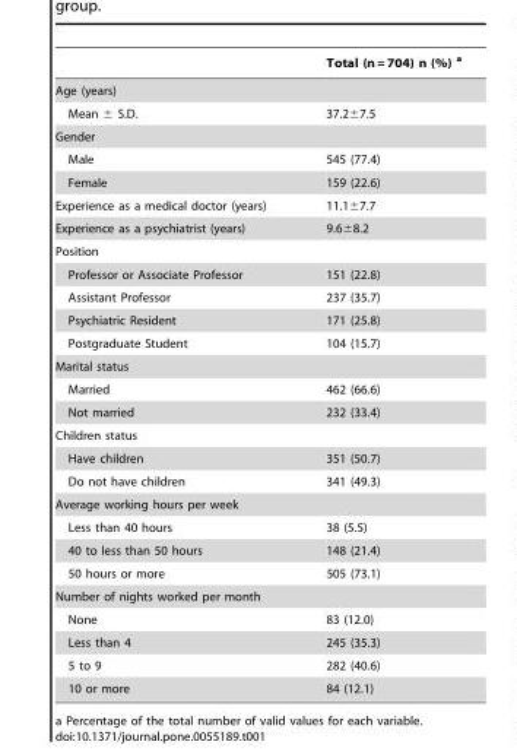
<table><thead><tr><td></td><td>Total (n = 704) n (%) <sup>a</sup></td></tr></thead><tbody><tr><td colspan="2">Age (years)</td></tr><tr><td>Mean ± S.D.</td><td>37.2±7.5</td></tr><tr><td colspan="2">Gender</td></tr><tr><td>Male</td><td>545 (77.4)</td></tr><tr><td>Female</td><td>159 (22.6)</td></tr><tr><td>Experience as a medical doctor (years)</td><td>11.1±7.7</td></tr><tr><td>Experience as a psychiatrist (years)</td><td>9.6±8.2</td></tr><tr><td colspan="2">Position</td></tr><tr><td>Professor or Associate Professor</td><td>151 (22.8)</td></tr><tr><td>Assistant Professor</td><td>237 (35.7)</td></tr><tr><td>Psychiatric Resident</td><td>171 (25.8)</td></tr><tr><td>Postgraduate Student</td><td>104 (15.7)</td></tr><tr><td colspan="2">Marital status</td></tr><tr><td>Married</td><td>462 (66.6)</td></tr><tr><td>Not married</td><td>232 (33.4)</td></tr><tr><td colspan="2">Children status</td></tr><tr><td>Have children</td><td>351 (50.7)</td></tr><tr><td>Do not have children</td><td>341 (49.3)</td></tr><tr><td colspan="2">Average working hours per week</td></tr><tr><td>Less than 40 hours</td><td>38 (5.5)</td></tr><tr><td>40 to less than 50 hours</td><td>148 (21.4)</td></tr><tr><td>50 hours or more</td><td>505 (73.1)</td></tr><tr><td colspan="2">Number of nights worked per month</td></tr><tr><td>None</td><td>83 (12.0)</td></tr><tr><td>Less than 4</td><td>245 (35.3)</td></tr><tr><td>5 to 9</td><td>282 (40.6)</td></tr><tr><td>10 or more</td><td>84 (12.1)</td></tr></tbody></table>